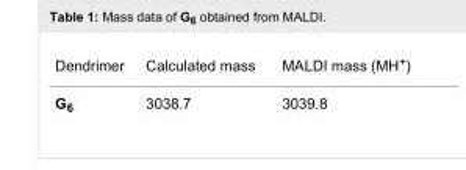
<table><tbody><tr><td>Dendrimer</td><td>Calculated mass</td><td>MALDI mass (MH<sup>+</sup>)</td></tr><tr><td>G<sub>6</sub></td><td>3038.7</td><td>3039.8</td></tr></tbody></table>